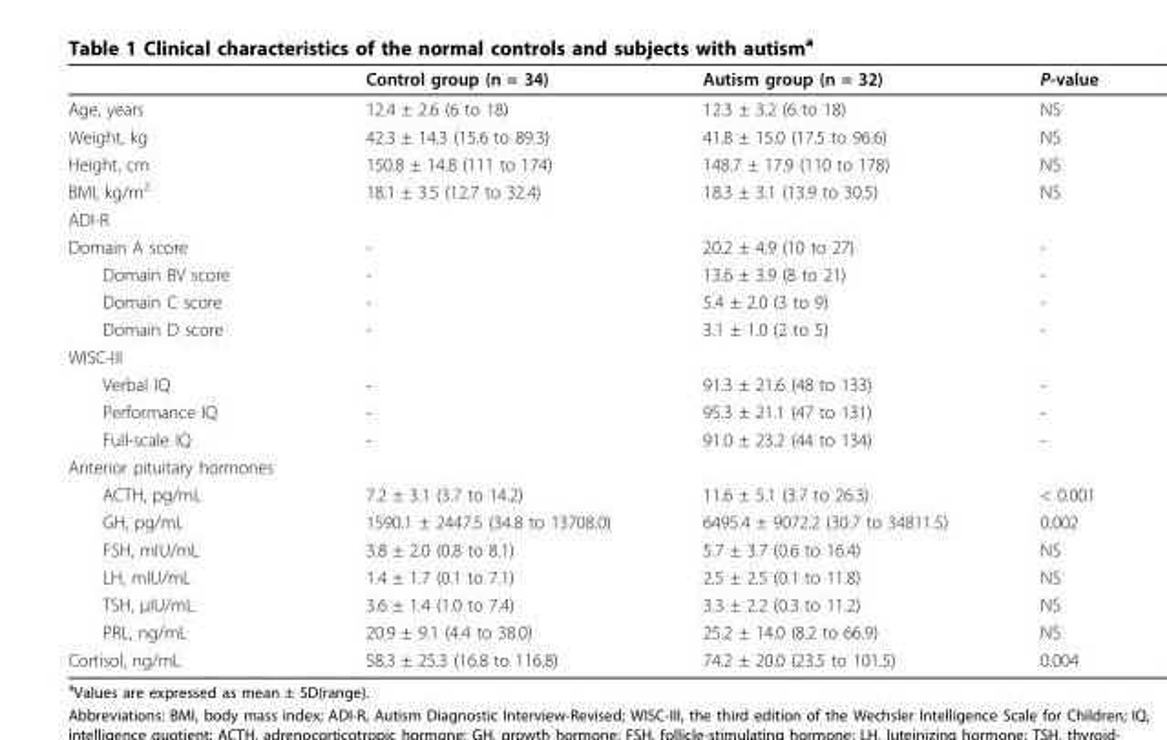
<table><thead><tr><td></td><td>Control group (n = 34)</td><td>Autism group (n = 32)</td><td>P-value</td></tr></thead><tbody><tr><td>Age, years</td><td>12.4 ± 2.6 (6 to 18)</td><td>12.3 ± 3.2 (6 to 18)</td><td>NS</td></tr><tr><td>Weight, kg</td><td>42.3 ± 14.3 (15.6 to 89.3)</td><td>41.8 ± 15.0 (17.5 to 96.6)</td><td>NS</td></tr><tr><td>Height, cm</td><td>150.8 ± 14.8 (111 to 174)</td><td>148.7 ± 17.9 (110 to 178)</td><td>NS</td></tr><tr><td>BMI, kg/m<sup>2</sup></td><td>18.1 ± 3.5 (12.7 to 32.4)</td><td>18.3 ± 3.1 (13.9 to 30.5)</td><td>NS</td></tr><tr><td colspan="4">ADI-R</td></tr><tr><td>Domain A score</td><td>-</td><td>20.2 ± 4.9 (10 to 27)</td><td>-</td></tr><tr><td>Domain BV score</td><td>-</td><td>13.6 ± 3.9 (8 to 21)</td><td>-</td></tr><tr><td>Domain C score</td><td>-</td><td>5.4 ± 2.0 (3 to 9)</td><td>-</td></tr><tr><td>Domain D score</td><td>-</td><td>3.1 ± 1.0 (2 to 5)</td><td>-</td></tr><tr><td colspan="4">WISC-III</td></tr><tr><td>Verbal IQ</td><td>-</td><td>91.3 ± 21.6 (48 to 133)</td><td>-</td></tr><tr><td>Performance IQ</td><td>-</td><td>95.3 ± 21.1 (47 to 131)</td><td>-</td></tr><tr><td>Full-scale IQ</td><td>-</td><td>91.0 ± 23.2 (44 to 134)</td><td>-</td></tr><tr><td colspan="4">Anterior pituitary hormones</td></tr><tr><td>ACTH, pg/mL</td><td>7.2 ± 3.1 (3.7 to 14.2)</td><td>11.6 ± 5.1 (3.7 to 26.3)</td><td>&lt; 0.001</td></tr><tr><td>GH, pg/mL</td><td>1590.1 ± 2447.5 (34.8 to 13708.0)</td><td>6495.4 ± 9072.2 (30.7 to 34811.5)</td><td>0.002</td></tr><tr><td>FSH, mIU/mL</td><td>3.8 ± 2.0 (0.8 to 8.1)</td><td>5.7 ± 3.7 (0.6 to 16.4)</td><td>NS</td></tr><tr><td>LH, mIU/mL</td><td>1.4 ± 1.7 (0.1 to 7.1)</td><td>2.5 ± 2.5 (0.1 to 11.8)</td><td>NS</td></tr><tr><td>TSH, μIU/mL</td><td>3.6 ± 1.4 (1.0 to 7.4)</td><td>3.3 ± 2.2 (0.3 to 11.2)</td><td>NS</td></tr><tr><td>PRL, ng/mL</td><td>20.9 ± 9.1 (4.4 to 38.0)</td><td>25.2 ± 14.0 (8.2 to 66.9)</td><td>NS</td></tr><tr><td>Cortisol, ng/mL</td><td>58.3 ± 25.3 (16.8 to 116.8)</td><td>74.2 ± 20.0 (23.5 to 101.5)</td><td>0.004</td></tr></tbody></table>